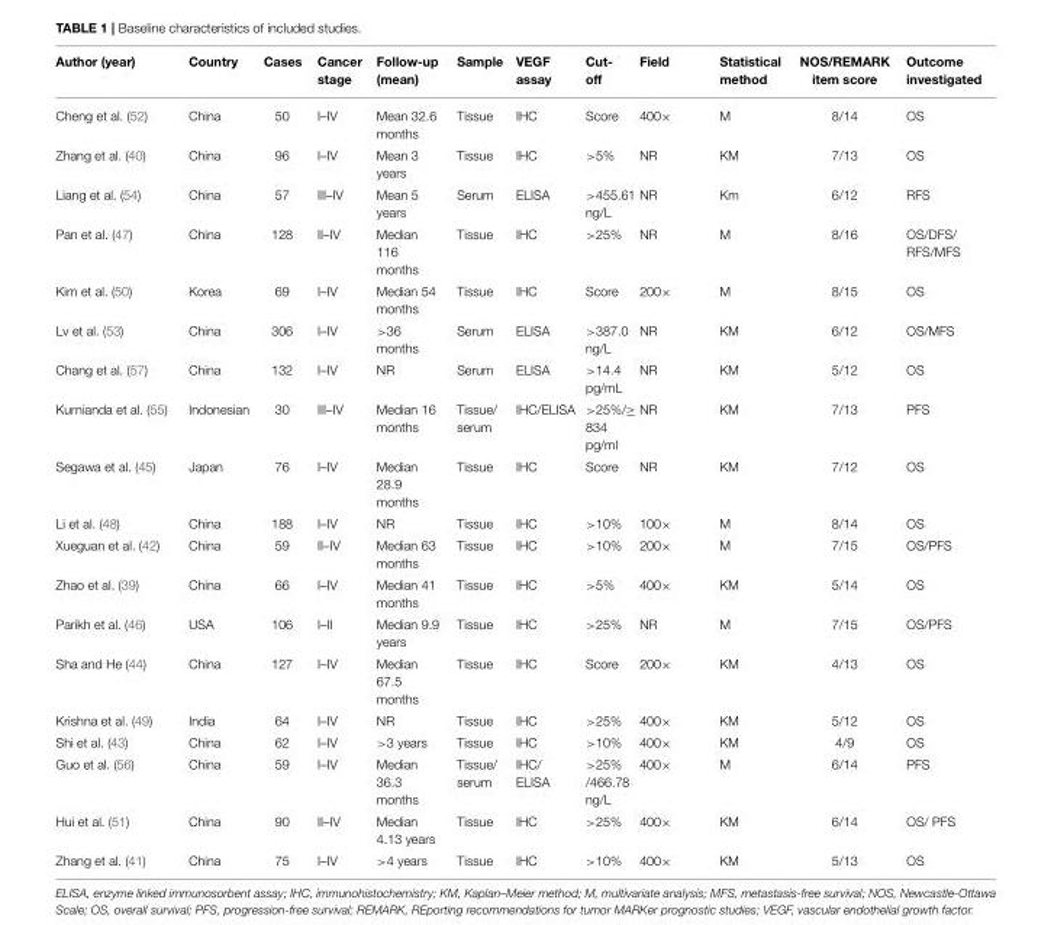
<table><thead><tr><td>Author (year)</td><td>Country</td><td>Cases</td><td>Cancer stage</td><td>Follow-up (mean)</td><td>Sample</td><td>VEGF assay</td><td>Cut- off</td><td>Field</td><td>Statistical method</td><td>NOS/REMARK item score</td><td>Outcome investigated</td></tr></thead><tbody><tr><td>Cheng et al. (52)</td><td>China</td><td>50</td><td>I–IV</td><td>Mean 32.6 months</td><td>Tissue</td><td>IHC</td><td>Score</td><td>400×</td><td>M</td><td>8/14</td><td>OS</td></tr><tr><td>Zhang et al. (40)</td><td>China</td><td>96</td><td>I–IV</td><td>Mean 3 years</td><td>Tissue</td><td>IHC</td><td>&gt;5%</td><td>NR</td><td>KM</td><td>7/13</td><td>OS</td></tr><tr><td>Liang et al. (54)</td><td>China</td><td>57</td><td>III–IV</td><td>Mean 5 years</td><td>Serum</td><td>ELISA</td><td>&gt;455.61 ng/L</td><td>NR</td><td>Km</td><td>6/12</td><td>RFS</td></tr><tr><td>Pan et al. (47)</td><td>China</td><td>128</td><td>II–IV</td><td>Median 116 months</td><td>Tissue</td><td>IHC</td><td>&gt;25%</td><td>NR</td><td>M</td><td>8/16</td><td>OS/DFS/ RFS/MFS</td></tr><tr><td>Kim et al. (50)</td><td>Korea</td><td>69</td><td>I–IV</td><td>Median 54 months</td><td>Tissue</td><td>IHC</td><td>Score</td><td>200×</td><td>M</td><td>8/15</td><td>OS</td></tr><tr><td>Lv et al. (53)</td><td>China</td><td>306</td><td>I–IV</td><td>&gt;36 months</td><td>Serum</td><td>ELISA</td><td>&gt;387.0 ng/L</td><td>NR</td><td>KM</td><td>6/12</td><td>OS/MFS</td></tr><tr><td>Chang et al. (57)</td><td>China</td><td>132</td><td>I–IV</td><td>NR</td><td>Serum</td><td>ELISA</td><td>&gt;14.4 pg/mL</td><td>NR</td><td>KM</td><td>5/12</td><td>OS</td></tr><tr><td>Kurnianda et al. (55)</td><td>Indonesian</td><td>30</td><td>III–IV</td><td>Median 16 months</td><td>Tissue/ serum</td><td>IHC/ELISA</td><td>&gt;25%/≥ 834 pg/ml</td><td>NR</td><td>KM</td><td>7/13</td><td>PFS</td></tr><tr><td>Segawa et al. (45)</td><td>Japan</td><td>76</td><td>I–IV</td><td>Median 28.9 months</td><td>Tissue</td><td>IHC</td><td>Score</td><td>NR</td><td>KM</td><td>7/12</td><td>OS</td></tr><tr><td>Li et al. (48)</td><td>China</td><td>188</td><td>I–IV</td><td>NR</td><td>Tissue</td><td>IHC</td><td>&gt;10%</td><td>100×</td><td>M</td><td>8/14</td><td>OS</td></tr><tr><td>Xueguan et al. (42)</td><td>China</td><td>59</td><td>II–IV</td><td>Median 63 months</td><td>Tissue</td><td>IHC</td><td>&gt;10%</td><td>200×</td><td>M</td><td>7/15</td><td>OS/PFS</td></tr><tr><td>Zhao et al. (39)</td><td>China</td><td>66</td><td>I–IV</td><td>Median 41 months</td><td>Tissue</td><td>IHC</td><td>&gt;5%</td><td>400×</td><td>KM</td><td>5/14</td><td>OS</td></tr><tr><td>Parikh et al. (46)</td><td>USA</td><td>106</td><td>I–II</td><td>Median 9.9 years</td><td>Tissue</td><td>IHC</td><td>&gt;25%</td><td>NR</td><td>M</td><td>7/15</td><td>OS/PFS</td></tr><tr><td>Sha and He (44)</td><td>China</td><td>127</td><td>I–IV</td><td>Median 67.5 months</td><td>Tissue</td><td>IHC</td><td>Score</td><td>200×</td><td>KM</td><td>4/13</td><td>OS</td></tr><tr><td>Krishna et al. (49)</td><td>India</td><td>64</td><td>I–IV</td><td>NR</td><td>Tissue</td><td>IHC</td><td>&gt;25%</td><td>400×</td><td>KM</td><td>5/12</td><td>OS</td></tr><tr><td>Shi et al. (43)</td><td>China</td><td>62</td><td>I–IV</td><td>&gt;3 years</td><td>Tissue</td><td>IHC</td><td>&gt;10%</td><td>400×</td><td>KM</td><td>4/9</td><td>OS</td></tr><tr><td>Guo et al. (56)</td><td>China</td><td>59</td><td>I–IV</td><td>Median 36.3 months</td><td>Tissue/ serum</td><td>IHC/ ELISA</td><td>&gt;25% /466.78 ng/L</td><td>400×</td><td>M</td><td>6/14</td><td>PFS</td></tr><tr><td>Hui et al. (51)</td><td>China</td><td>90</td><td>II–IV</td><td>Median 4.13 years</td><td>Tissue</td><td>IHC</td><td>&gt;25%</td><td>400×</td><td>KM</td><td>6/14</td><td>OS/ PFS</td></tr><tr><td>Zhang et al. (41)</td><td>China</td><td>75</td><td>I–IV</td><td>&gt;4 years</td><td>Tissue</td><td>IHC</td><td>&gt;10%</td><td>400×</td><td>KM</td><td>5/13</td><td>OS</td></tr></tbody></table>